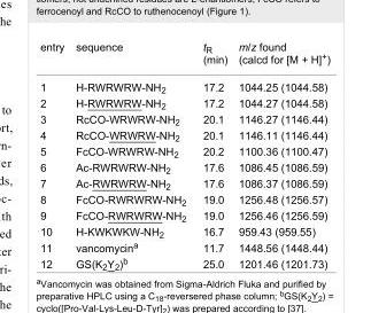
<table><tbody><tr><td>entry</td><td>sequence</td><td>t<sub>R</sub> (min)</td><td>m/z found (calcd for [M + H]<sup>+</sup>)</td></tr><tr><td>1</td><td>H-RWRWRW-NH<sub>2</sub></td><td>17.2</td><td>1044.25 (1044.58)</td></tr><tr><td>2</td><td>H-RWRWRW-NH<sub>2</sub></td><td>17.2</td><td>1044.27 (1044.58)</td></tr><tr><td>3</td><td>RcCO-WRWRW-NH<sub>2</sub></td><td>20.1</td><td>1146.27 (1146.44)</td></tr><tr><td>4</td><td>RcCO-WRWRW-NH<sub>2</sub></td><td>20.1</td><td>1146.11 (1146.44)</td></tr><tr><td>5</td><td>FcCO-WRWRW-NH<sub>2</sub></td><td>20.2</td><td>1100.36 (1100.47)</td></tr><tr><td>6</td><td>Ac-RWRWRW-NH<sub>2</sub></td><td>17.6</td><td>1086.45 (1086.59)</td></tr><tr><td>7</td><td>Ac-RWRWRW-NH<sub>2</sub></td><td>17.6</td><td>1086.37 (1086.59)</td></tr><tr><td>8</td><td>FcCO-RWRWRW-NH<sub>2</sub></td><td>19.0</td><td>1256.48 (1256.57)</td></tr><tr><td>9</td><td>FcCO-RWRWRW-NH<sub>2</sub></td><td>19.0</td><td>1256.46 (1256.59)</td></tr><tr><td>10</td><td>H-KWKWKW-NH<sub>2</sub></td><td>16.7</td><td>959.43 (959.55)</td></tr><tr><td>11</td><td>vancomycin<sup>a</sup></td><td>11.7</td><td>1448.56 (1448.44)</td></tr><tr><td>12</td><td>GS(K<sub>2</sub>Y<sub>2</sub>)<sup>b</sup></td><td>25.0</td><td>1201.46 (1201.73)</td></tr></tbody></table>